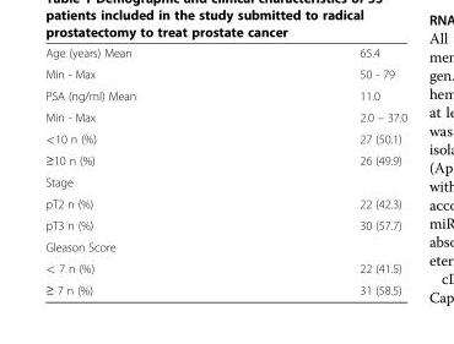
<table><tbody><tr><td>Age (years) Mean</td><td>65.4</td></tr><tr><td>Min - Max</td><td>50 - 79</td></tr><tr><td>PSA (ng/ml) Mean</td><td>11.0</td></tr><tr><td>Min - Max</td><td>2.0 – 37.0</td></tr><tr><td>&lt;10 n (%)</td><td>27 (50.1)</td></tr><tr><td>≥10 n (%)</td><td>26 (49.9)</td></tr><tr><td colspan="2">Stage</td></tr><tr><td>pT2 n (%)</td><td>22 (42.3)</td></tr><tr><td>pT3 n (%)</td><td>30 (57.7)</td></tr><tr><td colspan="2">Gleason Score</td></tr><tr><td>&lt; 7 n (%)</td><td>22 (41.5)</td></tr><tr><td>≥ 7 n (%)</td><td>31 (58.5)</td></tr></tbody></table>